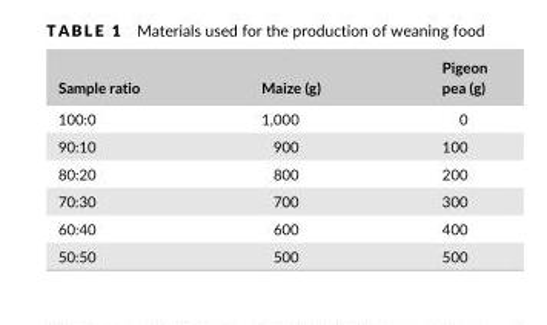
<table><thead><tr><td>Sample ratio</td><td>Maize (g)</td><td>Pigeon pea (g)</td></tr></thead><tbody><tr><td>100:0</td><td>1,000</td><td>0</td></tr><tr><td>90:10</td><td>900</td><td>100</td></tr><tr><td>80:20</td><td>800</td><td>200</td></tr><tr><td>70:30</td><td>700</td><td>300</td></tr><tr><td>60:40</td><td>600</td><td>400</td></tr><tr><td>50:50</td><td>500</td><td>500</td></tr></tbody></table>